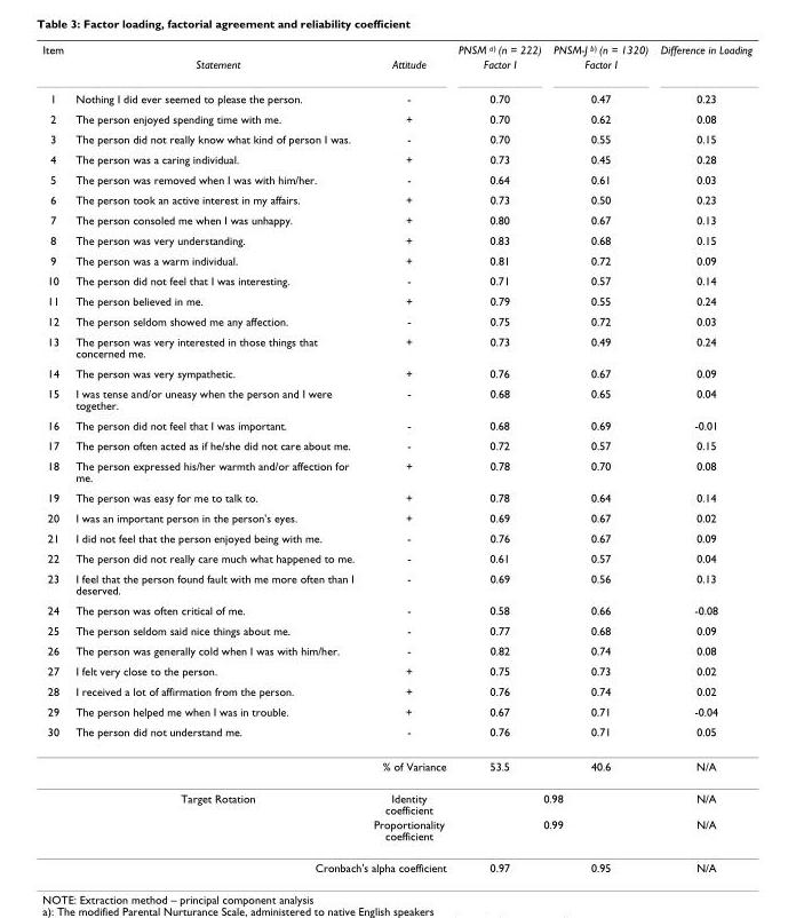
<table><thead><tr><td rowspan="32">Item 1 2 3 4 5 6 7 8 9 10 11 12 13 14 15 16 17 18 19 20 21 22 23 24 25 26 27 28 29 30</td><td rowspan="32">Statement Nothing I did ever seemed to please the person. The person enjoyed spending time with me. The person did not really know what kind of person I was. The person was a caring individual. The person was removed when I was with him/her. The person took an active interest in my affairs. The person consoled me when I was unhappy. The person was very understanding. The person was a warm individual. The person did not feel that I was interesting. The person believed in me. The person seldom showed me any affection. The person was very interested in those things that concerned me. The person was very sympathetic. I was tense and/or uneasy when the person and I were together. The person did not feel that I was important. The person often acted as if he/she did not care about me. The person expressed his/her warmth and/or affection for me. The person was easy for me to talk to. I was an important person in the person&#x27;s eyes. I did not feel that the person enjoyed being with me. The person did not really care much what happened to me. I feel that the person found fault with me more often than I deserved. The person was often critical of me. The person seldom said nice things about me. The person was generally cold when I was with him/her. I felt very close to the person. I received a lot of affirmation from the person. The person helped me when I was in trouble. The person did not understand me.</td><td rowspan="32">Attitude - + - + - + + + + - + - + + - - - + + + - - - - - - + + + -</td><td rowspan="32">PNSM a) (n = 222) Factor I 0.70 0.70 0.70 0.73 0.64 0.73 0.80 0.83 0.81 0.71 0.79 0.75 0.73 0.76 0.68 0.68 0.72 0.78 0.78 0.69 0.76 0.61 0.69 0.58 0.77 0.82 0.75 0.76 0.67 0.76</td><td rowspan="32">PNSM-J b) (n = 1320) Factor I 0.47 0.62 0.55 0.45 0.61 0.50 0.67 0.68 0.72 0.57 0.55 0.72 0.49 0.67 0.65 0.69 0.57 0.70 0.64 0.67 0.67 0.57 0.56 0.66 0.68 0.74 0.73 0.74 0.71 0.71</td><td rowspan="32">Difference in Loading 0.23 0.08 0.15 0.28 0.03 0.23 0.13 0.15 0.09 0.14 0.24 0.03 0.24 0.09 0.04 -0.01 0.15 0.08 0.14 0.02 0.09 0.04 0.13 -0.08 0.09 0.08 0.02 0.02 -0.04 0.05</td></tr><tr></tr><tr></tr><tr></tr><tr></tr><tr></tr><tr></tr><tr></tr><tr></tr><tr></tr><tr></tr><tr></tr><tr></tr><tr></tr><tr></tr><tr></tr><tr></tr><tr></tr><tr></tr><tr></tr><tr></tr><tr></tr><tr></tr><tr></tr><tr></tr><tr></tr><tr></tr><tr></tr><tr></tr><tr></tr><tr></tr><tr></tr></thead><tbody><tr><td colspan="3">% of Variance</td><td>53.5</td><td>40.6</td><td>N/A</td></tr><tr><td></td><td>Target Rotation</td><td>Identity coefficient</td><td colspan="2">0.98</td><td>N/A</td></tr><tr><td></td><td></td><td>Proportionality coefficient</td><td colspan="2">0.99</td><td>N/A</td></tr><tr><td colspan="3">Cronbach&#x27;s alpha coefficient</td><td>0.97</td><td>0.95</td><td>N/A</td></tr></tbody></table>